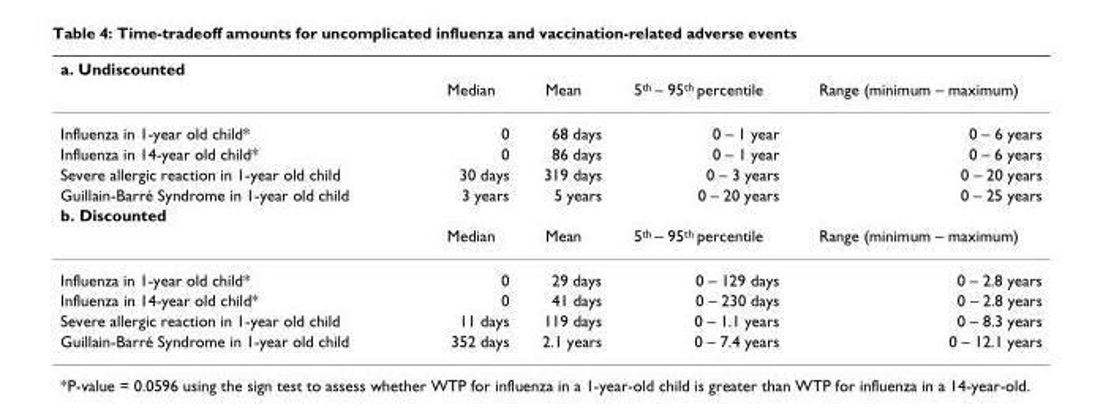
<table><thead><tr><td rowspan="2">a. Undiscounted</td><td rowspan="2">Median</td><td rowspan="2">Mean</td><td rowspan="2">5<sup>th</sup> – 95<sup>th</sup> percentile</td><td rowspan="2">Range (minimum – maximum)</td></tr><tr></tr></thead><tbody><tr><td>Influenza in 1-year old child*</td><td>0</td><td>68 days</td><td>0 – 1 year</td><td>0 – 6 years</td></tr><tr><td>Influenza in 14-year old child*</td><td>0</td><td>86 days</td><td>0 – 1 year</td><td>0 – 6 years</td></tr><tr><td>Severe allergic reaction in 1-year old child</td><td>30 days</td><td>319 days</td><td>0 – 3 years</td><td>0 – 20 years</td></tr><tr><td>Guillain-Barré Syndrome in 1-year old child</td><td>3 years</td><td>5 years</td><td>0 – 20 years</td><td>0 – 25 years</td></tr><tr><td colspan="5">b. Discounted</td></tr><tr><td></td><td>Median</td><td>Mean</td><td>5<sup>th</sup> – 95<sup>th</sup> percentile</td><td>Range (minimum – maximum)</td></tr><tr><td>Influenza in 1-year old child*</td><td>0</td><td>29 days</td><td>0 – 129 days</td><td>0 – 2.8 years</td></tr><tr><td>Influenza in 14-year old child*</td><td>0</td><td>41 days</td><td>0 – 230 days</td><td>0 – 2.8 years</td></tr><tr><td>Severe allergic reaction in 1-year old child</td><td>11 days</td><td>119 days</td><td>0 – 1.1 years</td><td>0 – 8.3 years</td></tr><tr><td>Guillain-Barré Syndrome in 1-year old child</td><td>352 days</td><td>2.1 years</td><td>0 – 7.4 years</td><td>0 – 12.1 years</td></tr></tbody></table>